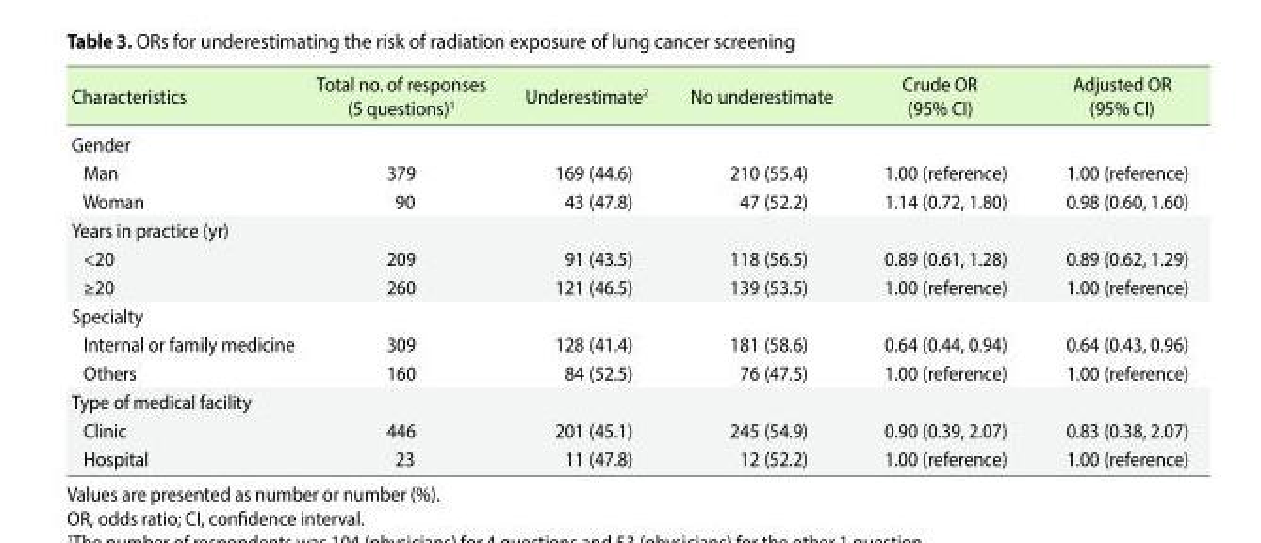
<table><thead><tr><td>Characteristics</td><td>Total no. of responses (5 questions)<sup>1</sup></td><td>Underestimate<sup>2</sup></td><td>No underestimate</td><td>Crude OR (95% CI)</td><td>Adjusted OR (95% CI)</td></tr></thead><tbody><tr><td colspan="6">Gender</td></tr><tr><td>Man</td><td>379</td><td>169 (44.6)</td><td>210 (55.4)</td><td>1.00 (reference)</td><td>1.00 (reference)</td></tr><tr><td>Woman</td><td>90</td><td>43 (47.8)</td><td>47 (52.2)</td><td>1.14 (0.72, 1.80)</td><td>0.98 (0.60, 1.60)</td></tr><tr><td colspan="6">Years in practice (yr)</td></tr><tr><td>&lt;20</td><td>209</td><td>91 (43.5)</td><td>118 (56.5)</td><td>0.89 (0.61, 1.28)</td><td>0.89 (0.62, 1.29)</td></tr><tr><td>≥20</td><td>260</td><td>121 (46.5)</td><td>139 (53.5)</td><td>1.00 (reference)</td><td>1.00 (reference)</td></tr><tr><td colspan="6">Specialty</td></tr><tr><td>Internal or family medicine</td><td>309</td><td>128 (41.4)</td><td>181 (58.6)</td><td>0.64 (0.44, 0.94)</td><td>0.64 (0.43, 0.96)</td></tr><tr><td>Others</td><td>160</td><td>84 (52.5)</td><td>76 (47.5)</td><td>1.00 (reference)</td><td>1.00 (reference)</td></tr><tr><td colspan="6">Type of medical facility</td></tr><tr><td>Clinic</td><td>446</td><td>201 (45.1)</td><td>245 (54.9)</td><td>0.90 (0.39, 2.07)</td><td>0.83 (0.38, 2.07)</td></tr><tr><td>Hospital</td><td>23</td><td>11 (47.8)</td><td>12 (52.2)</td><td>1.00 (reference)</td><td>1.00 (reference)</td></tr></tbody></table>